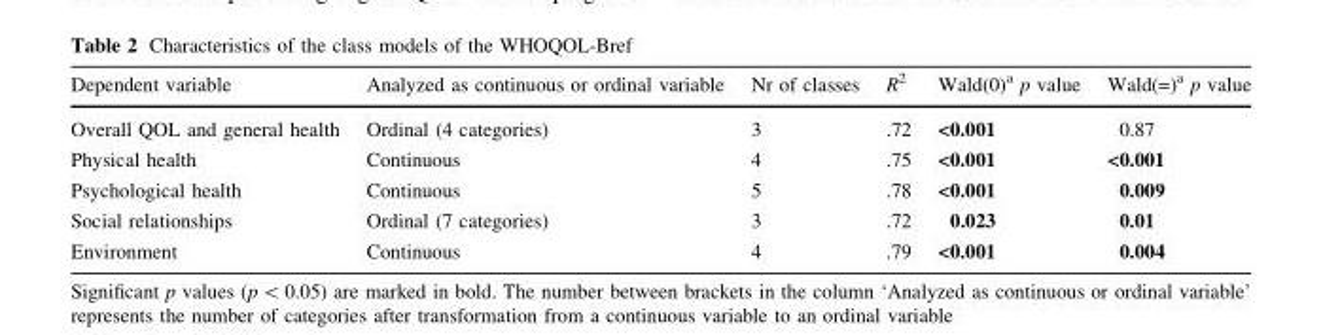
<table><thead><tr><td>Dependent variable</td><td>Analyzed as continuous or ordinal variable</td><td>Nr of classes</td><td>R<sup>2</sup></td><td>Wald(0)<sup>a</sup> p value</td><td>Wald(=)<sup>a</sup> p value</td></tr></thead><tbody><tr><td>Overall QOL and general health</td><td>Ordinal (4 categories)</td><td>3</td><td>.72</td><td>&lt;0.001</td><td>0.87</td></tr><tr><td>Physical health</td><td>Continuous</td><td>4</td><td>.75</td><td>&lt;0.001</td><td>&lt;0.001</td></tr><tr><td>Psychological health</td><td>Continuous</td><td>5</td><td>.78</td><td>&lt;0.001</td><td>0.009</td></tr><tr><td>Social relationships</td><td>Ordinal (7 categories)</td><td>3</td><td>.72</td><td>0.023</td><td>0.01</td></tr><tr><td>Environment</td><td>Continuous</td><td>4</td><td>.79</td><td>&lt;0.001</td><td>0.004</td></tr></tbody></table>